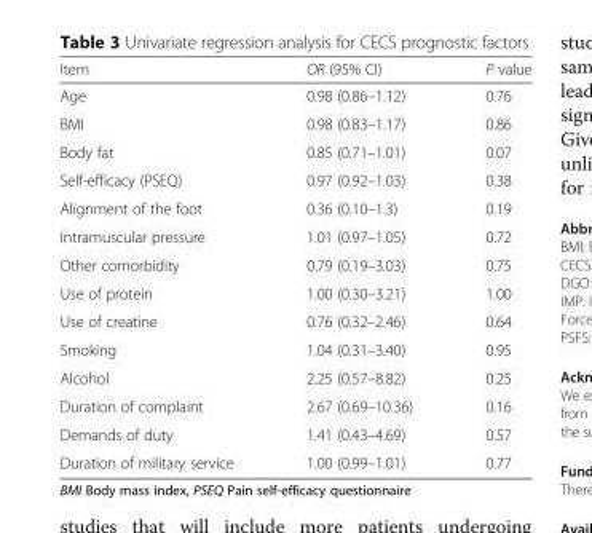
<table><thead><tr><td>Item</td><td>OR (95% CI)</td><td>P value</td></tr></thead><tbody><tr><td>Age</td><td>0.98 (0.86–1.12)</td><td>0.76</td></tr><tr><td>BMI</td><td>0.98 (0.83–1.17)</td><td>0.86</td></tr><tr><td>Body fat</td><td>0.85 (0.71–1.01)</td><td>0.07</td></tr><tr><td>Self-efficacy (PSEQ)</td><td>0.97 (0.92–1.03)</td><td>0.38</td></tr><tr><td>Alignment of the foot</td><td>0.36 (0.10–1.3)</td><td>0.19</td></tr><tr><td>Intramuscular pressure</td><td>1.01 (0.97–1.05)</td><td>0.72</td></tr><tr><td>Other comorbidity</td><td>0.79 (0.19–3.03)</td><td>0.75</td></tr><tr><td>Use of protein</td><td>1.00 (0.30–3.21)</td><td>1.00</td></tr><tr><td>Use of creatine</td><td>0.76 (0.32–2.46)</td><td>0.64</td></tr><tr><td>Smoking</td><td>1.04 (0.31–3.40)</td><td>0.95</td></tr><tr><td>Alcohol</td><td>2.25 (0.57–8.82)</td><td>0.25</td></tr><tr><td>Duration of complaint</td><td>2.67 (0.69–10.36)</td><td>0.16</td></tr><tr><td>Demands of duty</td><td>1.41 (0.43–4.69)</td><td>0.57</td></tr><tr><td>Duration of military service</td><td>1.00 (0.99–1.01)</td><td>0.77</td></tr></tbody></table>